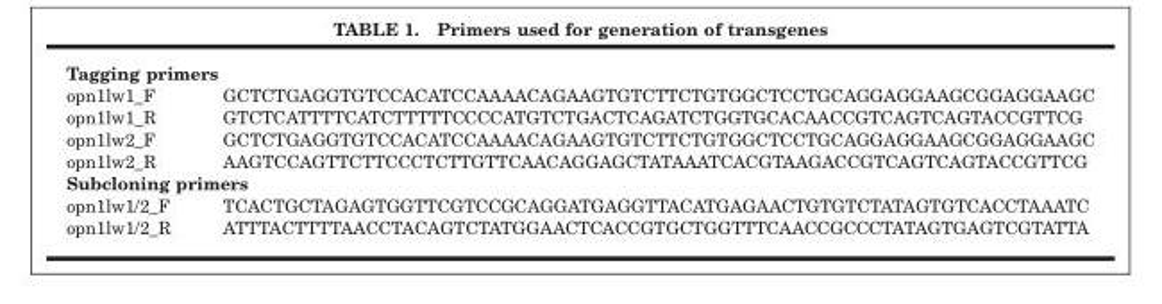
<table><tbody><tr><td colspan="2">Tagging primers</td></tr><tr><td>opn1lw1_F</td><td>GCTCTGAGGTGTCCACATCCAAAACAGAAGTGTCTTCTGTGGCTCCTGCAGGAGGAAGCGGAGGAAGC</td></tr><tr><td>opn1lw1_R</td><td>GTCTCATTTTCATCTTTTTCCCCATGTCTGACTCAGATCTGGTGCACAACCGTCAGTCAGTACCGTTCG</td></tr><tr><td>opn1lw2_F</td><td>GCTCTGAGGTGTCCACATCCAAAACAGAAGTGTCTTCTGTGGCTCCTGCAGGAGGAAGCGGAGGAAGC</td></tr><tr><td>opn1lw2_R</td><td>AAGTCCAGTTCTTCCCTCTTGTTCAACAGGAGCTATAAATCACGTAAGACCGTCAGTCAGTACCGTTCG</td></tr><tr><td colspan="2">Subcloning primers</td></tr><tr><td>opn1lw1/2_F</td><td>TCACTGCTAGAGTGGTTCGTCCGCAGGATGAGGTTACATGAGAACTGTGTCTATAGTGTCACCTAAATC</td></tr><tr><td>opn1lw1/2_R</td><td>ATTTACTTTTAACCTACAGTCTATGGAACTCACCGTGCTGGTTTCAACCGCCCTATAGTGAGTCGTATTA</td></tr></tbody></table>